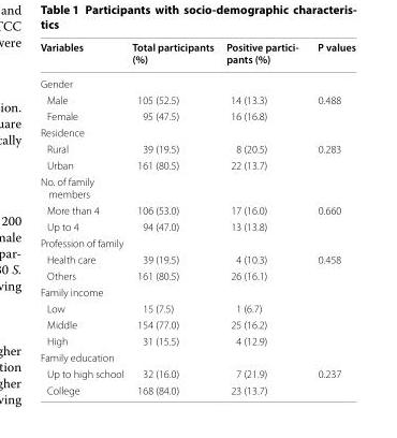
<table><thead><tr><td>Variables</td><td>Total participants (%)</td><td>Positive partici‑ pants (%)</td><td>P values</td></tr></thead><tbody><tr><td colspan="4">Gender</td></tr><tr><td>Male</td><td>105 (52.5)</td><td>14 (13.3)</td><td>0.488</td></tr><tr><td>Female</td><td>95 (47.5)</td><td>16 (16.8)</td><td></td></tr><tr><td colspan="4">Residence</td></tr><tr><td>Rural</td><td>39 (19.5)</td><td>8 (20.5)</td><td>0.283</td></tr><tr><td>Urban</td><td>161 (80.5)</td><td>22 (13.7)</td><td></td></tr><tr><td colspan="4">No. of family members</td></tr><tr><td>More than 4</td><td>106 (53.0)</td><td>17 (16.0)</td><td>0.660</td></tr><tr><td>Up to 4</td><td>94 (47.0)</td><td>13 (13.8)</td><td></td></tr><tr><td colspan="4">Profession of family</td></tr><tr><td>Health care</td><td>39 (19.5)</td><td>4 (10.3)</td><td>0.458</td></tr><tr><td>Others</td><td>161 (80.5)</td><td>26 (16.1)</td><td></td></tr><tr><td colspan="4">Family income</td></tr><tr><td>Low</td><td>15 (7.5)</td><td>1 (6.7)</td><td></td></tr><tr><td>Middle</td><td>154 (77.0)</td><td>25 (16.2)</td><td></td></tr><tr><td>High</td><td>31 (15.5)</td><td>4 (12.9)</td><td></td></tr><tr><td colspan="4">Family education</td></tr><tr><td>Up to high school</td><td>32 (16.0)</td><td>7 (21.9)</td><td>0.237</td></tr><tr><td>College</td><td>168 (84.0)</td><td>23 (13.7)</td><td></td></tr></tbody></table>